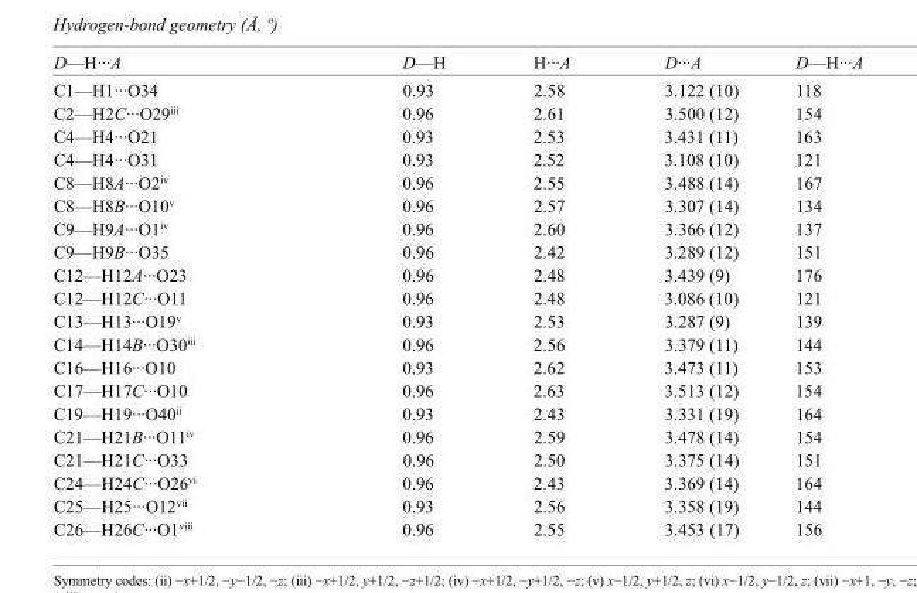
<table><tbody><tr><td>D—H···A</td><td>D—H</td><td>H···A</td><td>D···A</td><td>D—H···A</td></tr><tr><td>C1—H1···O34</td><td>0.93</td><td>2.58</td><td>3.122 (10)</td><td>118</td></tr><tr><td>C2—H2C···O29<sup>iii</sup></td><td>0.96</td><td>2.61</td><td>3.500 (12)</td><td>154</td></tr><tr><td>C4—H4···O21</td><td>0.93</td><td>2.53</td><td>3.431 (11)</td><td>163</td></tr><tr><td>C4—H4···O31</td><td>0.93</td><td>2.52</td><td>3.108 (10)</td><td>121</td></tr><tr><td>C8—H8A···O2<sup>iv</sup></td><td>0.96</td><td>2.55</td><td>3.488 (14)</td><td>167</td></tr><tr><td>C8—H8B···O10<sup>v</sup></td><td>0.96</td><td>2.57</td><td>3.307 (14)</td><td>134</td></tr><tr><td>C9—H9A···O1<sup>iv</sup></td><td>0.96</td><td>2.60</td><td>3.366 (12)</td><td>137</td></tr><tr><td>C9—H9B···O35</td><td>0.96</td><td>2.42</td><td>3.289 (12)</td><td>151</td></tr><tr><td>C12—H12A···O23</td><td>0.96</td><td>2.48</td><td>3.439 (9)</td><td>176</td></tr><tr><td>C12—H12C···O11</td><td>0.96</td><td>2.48</td><td>3.086 (10)</td><td>121</td></tr><tr><td>C13—H13···O19<sup>v</sup></td><td>0.93</td><td>2.53</td><td>3.287 (9)</td><td>139</td></tr><tr><td>C14—H14B···O30<sup>iii</sup></td><td>0.96</td><td>2.56</td><td>3.379 (11)</td><td>144</td></tr><tr><td>C16—H16···O10</td><td>0.93</td><td>2.62</td><td>3.473 (11)</td><td>153</td></tr><tr><td>C17—H17C···O10</td><td>0.96</td><td>2.63</td><td>3.513 (12)</td><td>154</td></tr><tr><td>C19—H19···O40<sup>ii</sup></td><td>0.93</td><td>2.43</td><td>3.331 (19)</td><td>164</td></tr><tr><td>C21—H21B···O11<sup>iv</sup></td><td>0.96</td><td>2.59</td><td>3.478 (14)</td><td>154</td></tr><tr><td>C21—H21C···O33</td><td>0.96</td><td>2.50</td><td>3.375 (14)</td><td>151</td></tr><tr><td>C24—H24C···O26<sup>vi</sup></td><td>0.96</td><td>2.43</td><td>3.369 (14)</td><td>164</td></tr><tr><td>C25—H25···O12<sup>vii</sup></td><td>0.93</td><td>2.56</td><td>3.358 (19)</td><td>144</td></tr><tr><td>C26—H26C···O1<sup>viii</sup></td><td>0.96</td><td>2.55</td><td>3.453 (17)</td><td>156</td></tr></tbody></table>